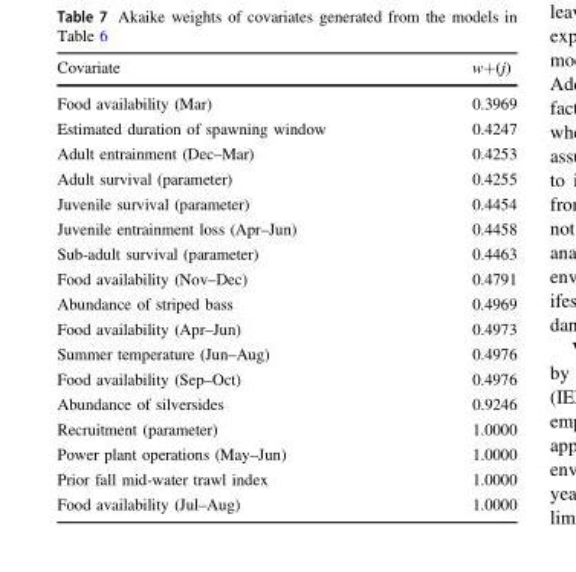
<table><thead><tr><td>Covariate</td><td>w+(j)</td></tr></thead><tbody><tr><td>Food availability (Mar)</td><td>0.3969</td></tr><tr><td>Estimated duration of spawning window</td><td>0.4247</td></tr><tr><td>Adult entrainment (Dec–Mar)</td><td>0.4253</td></tr><tr><td>Adult survival (parameter)</td><td>0.4255</td></tr><tr><td>Juvenile survival (parameter)</td><td>0.4454</td></tr><tr><td>Juvenile entrainment loss (Apr–Jun)</td><td>0.4458</td></tr><tr><td>Sub-adult survival (parameter)</td><td>0.4463</td></tr><tr><td>Food availability (Nov–Dec)</td><td>0.4791</td></tr><tr><td>Abundance of striped bass</td><td>0.4969</td></tr><tr><td>Food availability (Apr–Jun)</td><td>0.4973</td></tr><tr><td>Summer temperature (Jun–Aug)</td><td>0.4976</td></tr><tr><td>Food availability (Sep–Oct)</td><td>0.4976</td></tr><tr><td>Abundance of silversides</td><td>0.9246</td></tr><tr><td>Recruitment (parameter)</td><td>1.0000</td></tr><tr><td>Power plant operations (May–Jun)</td><td>1.0000</td></tr><tr><td>Prior fall mid-water trawl index</td><td>1.0000</td></tr><tr><td>Food availability (Jul–Aug)</td><td>1.0000</td></tr></tbody></table>